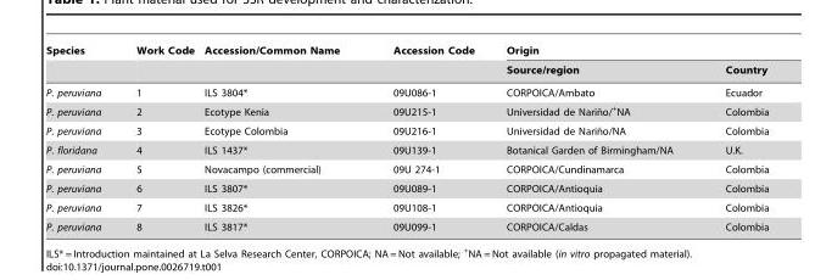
<table><thead><tr><td rowspan="2">Species</td><td rowspan="2">Work Code</td><td rowspan="2">Accession/Common Name</td><td rowspan="2">Accession Code</td><td colspan="2">Origin</td></tr><tr><td>Source/region</td><td>Country</td></tr></thead><tbody><tr><td>P. peruviana</td><td>1</td><td>ILS 3804*</td><td>09U086-1</td><td>CORPOICA/Ambato</td><td>Ecuador</td></tr><tr><td>P. peruviana</td><td>2</td><td>Ecotype Kenia</td><td>09U215-1</td><td>Universidad de Narin˜o/+NA</td><td>Colombia</td></tr><tr><td>P. peruviana</td><td>3</td><td>Ecotype Colombia</td><td>09U216-1</td><td>Universidad de Narin˜o/NA</td><td>Colombia</td></tr><tr><td>P. floridana</td><td>4</td><td>ILS 1437*</td><td>09U139-1</td><td>Botanical Garden of Birmingham/NA</td><td>U.K.</td></tr><tr><td>P. peruviana</td><td>5</td><td>Novacampo (commercial)</td><td>09U 274-1</td><td>CORPOICA/Cundinamarca</td><td>Colombia</td></tr><tr><td>P. peruviana</td><td>6</td><td>ILS 3807*</td><td>09U089-1</td><td>CORPOICA/Antioquia</td><td>Colombia</td></tr><tr><td>P. peruviana</td><td>7</td><td>ILS 3826*</td><td>09U108-1</td><td>CORPOICA/Antioquia</td><td>Colombia</td></tr><tr><td>P. peruviana</td><td>8</td><td>ILS 3817*</td><td>09U099-1</td><td>CORPOICA/Caldas</td><td>Colombia</td></tr></tbody></table>